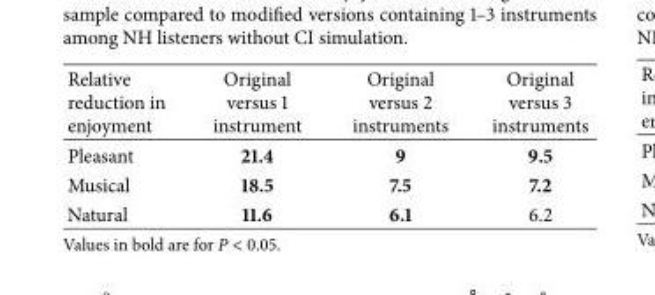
<table><thead><tr><td>Relative reduction in enjoyment</td><td>Original versus 1 instrument</td><td>Original versus 2 instruments</td><td>Original versus 3 instruments</td></tr></thead><tbody><tr><td>Pleasant</td><td>21.4</td><td>9</td><td>9.5</td></tr><tr><td>Musical</td><td>18.5</td><td>7.5</td><td>7.2</td></tr><tr><td>Natural</td><td>11.6</td><td>6.1</td><td>6.2</td></tr></tbody></table>